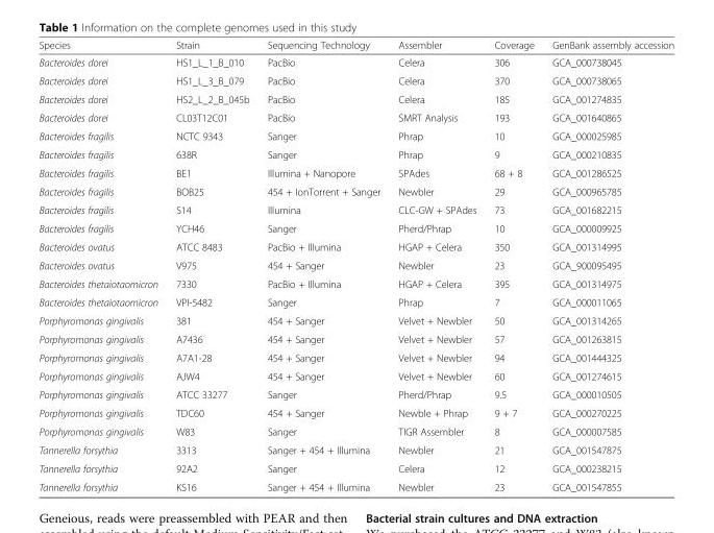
<table><thead><tr><td>Species</td><td>Strain</td><td>Sequencing Technology</td><td>Assembler</td><td>Coverage</td><td>GenBank assembly accession</td></tr></thead><tbody><tr><td>Bacteroides dorei</td><td>HS1_L_1_B_010</td><td>PacBio</td><td>Celera</td><td>306</td><td>GCA_000738045</td></tr><tr><td>Bacteroides dorei</td><td>HS1_L_3_B_079</td><td>PacBio</td><td>Celera</td><td>370</td><td>GCA_000738065</td></tr><tr><td>Bacteroides dorei</td><td>HS2_L_2_B_045b</td><td>PacBio</td><td>Celera</td><td>185</td><td>GCA_001274835</td></tr><tr><td>Bacteroides dorei</td><td>CL03T12C01</td><td>PacBio</td><td>SMRT Analysis</td><td>193</td><td>GCA_001640865</td></tr><tr><td>Bacteroides fragilis</td><td>NCTC 9343</td><td>Sanger</td><td>Phrap</td><td>10</td><td>GCA_000025985</td></tr><tr><td>Bacteroides fragilis</td><td>638R</td><td>Sanger</td><td>Phrap</td><td>9</td><td>GCA_000210835</td></tr><tr><td>Bacteroides fragilis</td><td>BE1</td><td>Illumina + Nanopore</td><td>SPAdes</td><td>68 + 8</td><td>GCA_001286525</td></tr><tr><td>Bacteroides fragilis</td><td>BOB25</td><td>454 + IonTorrent + Sanger</td><td>Newbler</td><td>29</td><td>GCA_000965785</td></tr><tr><td>Bacteroides fragilis</td><td>S14</td><td>Illumina</td><td>CLC-GW + SPAdes</td><td>73</td><td>GCA_001682215</td></tr><tr><td>Bacteroides fragilis</td><td>YCH46</td><td>Sanger</td><td>Pherd/Phrap</td><td>10</td><td>GCA_000009925</td></tr><tr><td>Bacteroides ovatus</td><td>ATCC 8483</td><td>PacBio + Illumina</td><td>HGAP + Celera</td><td>350</td><td>GCA_001314995</td></tr><tr><td>Bacteroides ovatus</td><td>V975</td><td>454 + Sanger</td><td>Newbler</td><td>23</td><td>GCA_900095495</td></tr><tr><td>Bacteroides thetaiotaomicron</td><td>7330</td><td>PacBio + Illumina</td><td>HGAP + Celera</td><td>395</td><td>GCA_001314975</td></tr><tr><td>Bacteroides thetaiotaomicron</td><td>VPI-5482</td><td>Sanger</td><td>Phrap</td><td>7</td><td>GCA_000011065</td></tr><tr><td>Porphyromonas gingivalis</td><td>381</td><td>454 + Sanger</td><td>Velvet + Newbler</td><td>50</td><td>GCA_001314265</td></tr><tr><td>Porphyromonas gingivalis</td><td>A7436</td><td>454 + Sanger</td><td>Velvet + Newbler</td><td>57</td><td>GCA_001263815</td></tr><tr><td>Porphyromonas gingivalis</td><td>A7A1-28</td><td>454 + Sanger</td><td>Velvet + Newbler</td><td>94</td><td>GCA_001444325</td></tr><tr><td>Porphyromonas gingivalis</td><td>AJW4</td><td>454 + Sanger</td><td>Velvet + Newbler</td><td>60</td><td>GCA_001274615</td></tr><tr><td>Porphyromonas gingivalis</td><td>ATCC 33277</td><td>Sanger</td><td>Pherd/Phrap</td><td>9.5</td><td>GCA_000010505</td></tr><tr><td>Porphyromonas gingivalis</td><td>TDC60</td><td>454 + Sanger</td><td>Newble + Phrap</td><td>9 + 7</td><td>GCA_000270225</td></tr><tr><td>Porphyromonas gingivalis</td><td>W83</td><td>Sanger</td><td>TIGR Assembler</td><td>8</td><td>GCA_000007585</td></tr><tr><td>Tannerella forsythia</td><td>3313</td><td>Sanger + 454 + Illumina</td><td>Newbler</td><td>21</td><td>GCA_001547875</td></tr><tr><td>Tannerella forsythia</td><td>92A2</td><td>Sanger</td><td>Celera</td><td>12</td><td>GCA_000238215</td></tr><tr><td>Tannerella forsythia</td><td>KS16</td><td>Sanger + 454 + Illumina</td><td>Newbler</td><td>23</td><td>GCA_001547855</td></tr></tbody></table>